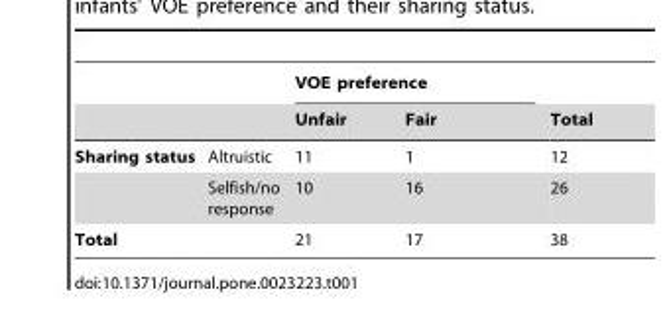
<table><thead><tr><td rowspan="2"></td><td rowspan="2"></td><td colspan="2">VOE preference</td><td rowspan="2">Total</td></tr><tr><td>Unfair</td><td>Fair</td></tr></thead><tbody><tr><td rowspan="2">Sharing status</td><td>Altruistic</td><td>11</td><td>1</td><td>12</td></tr><tr><td>Selfish/no response</td><td>10</td><td>16</td><td>26</td></tr><tr><td>Total</td><td></td><td>21</td><td>17</td><td>38</td></tr></tbody></table>